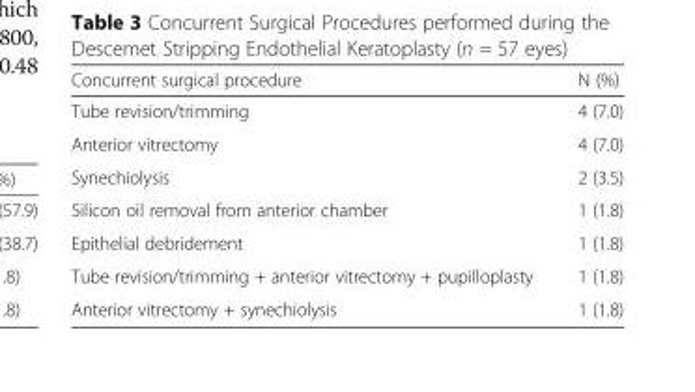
<table><thead><tr><td>Concurrent surgical procedure</td><td>N (%)</td></tr></thead><tbody><tr><td>Tube revision/trimming</td><td>4 (7.0)</td></tr><tr><td>Anterior vitrectomy</td><td>4 (7.0)</td></tr><tr><td>Synechiolysis</td><td>2 (3.5)</td></tr><tr><td>Silicon oil removal from anterior chamber</td><td>1 (1.8)</td></tr><tr><td>Epithelial debridement</td><td>1 (1.8)</td></tr><tr><td>Tube revision/trimming + anterior vitrectomy + pupilloplasty</td><td>1 (1.8)</td></tr><tr><td>Anterior vitrectomy + synechiolysis</td><td>1 (1.8)</td></tr></tbody></table>